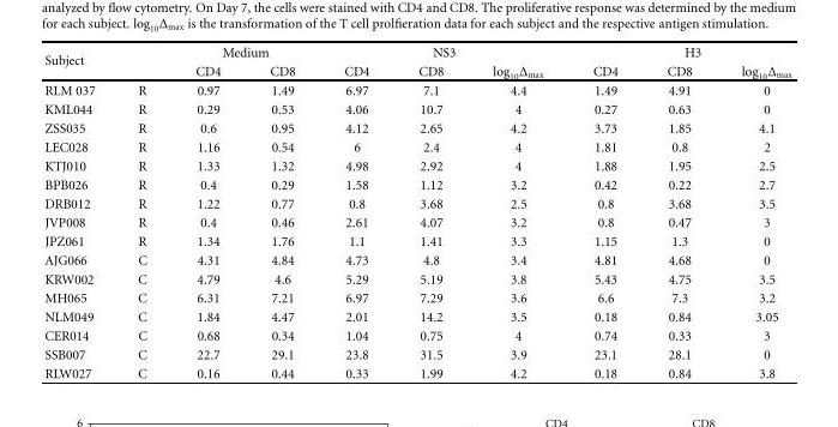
<table><thead><tr><td rowspan="2">Subject</td><td rowspan="2"></td><td colspan="2">Medium</td><td colspan="3">NS3</td><td colspan="3">H3</td></tr><tr><td>CD4</td><td>CD8</td><td>CD4</td><td>CD8</td><td>log<sub>10</sub>Δ<sub>max</sub></td><td>CD4</td><td>CD8</td><td>log<sub>10</sub>Δ<sub>max</sub></td></tr></thead><tbody><tr><td>RLM 037</td><td>R</td><td>0.97</td><td>1.49</td><td>6.97</td><td>7.1</td><td>4.4</td><td>1.49</td><td>4.91</td><td>0</td></tr><tr><td>KML044</td><td>R</td><td>0.29</td><td>0.53</td><td>4.06</td><td>10.7</td><td>4</td><td>0.27</td><td>0.63</td><td>0</td></tr><tr><td>ZSS035</td><td>R</td><td>0.6</td><td>0.95</td><td>4.12</td><td>2.65</td><td>4.2</td><td>3.73</td><td>1.85</td><td>4.1</td></tr><tr><td>LEC028</td><td>R</td><td>1.16</td><td>0.54</td><td>6</td><td>2.4</td><td>4</td><td>1.81</td><td>0.8</td><td>2</td></tr><tr><td>KTJ010</td><td>R</td><td>1.33</td><td>1.32</td><td>4.98</td><td>2.92</td><td>4</td><td>1.88</td><td>1.95</td><td>2.5</td></tr><tr><td>BPB026</td><td>R</td><td>0.4</td><td>0.29</td><td>1.58</td><td>1.12</td><td>3.2</td><td>0.42</td><td>0.22</td><td>2.7</td></tr><tr><td>DRB012</td><td>R</td><td>1.22</td><td>0.77</td><td>0.8</td><td>3.68</td><td>2.5</td><td>0.8</td><td>3.68</td><td>3.5</td></tr><tr><td>JVP008</td><td>R</td><td>0.4</td><td>0.46</td><td>2.61</td><td>4.07</td><td>3.2</td><td>0.8</td><td>0.47</td><td>3</td></tr><tr><td>JPZ061</td><td>R</td><td>1.34</td><td>1.76</td><td>1.1</td><td>1.41</td><td>3.3</td><td>1.15</td><td>1.3</td><td>0</td></tr><tr><td>AJG066</td><td>C</td><td>4.31</td><td>4.84</td><td>4.73</td><td>4.8</td><td>3.4</td><td>4.81</td><td>4.68</td><td>0</td></tr><tr><td>KRW002</td><td>C</td><td>4.79</td><td>4.6</td><td>5.29</td><td>5.19</td><td>3.8</td><td>5.43</td><td>4.75</td><td>3.5</td></tr><tr><td>MH065</td><td>C</td><td>6.31</td><td>7.21</td><td>6.97</td><td>7.29</td><td>3.6</td><td>6.6</td><td>7.3</td><td>3.2</td></tr><tr><td>NLM049</td><td>C</td><td>1.84</td><td>4.47</td><td>2.01</td><td>14.2</td><td>3.5</td><td>0.18</td><td>0.84</td><td>3.05</td></tr><tr><td>CER014</td><td>C</td><td>0.68</td><td>0.34</td><td>1.04</td><td>0.75</td><td>4</td><td>0.74</td><td>0.33</td><td>3</td></tr><tr><td>SSB007</td><td>C</td><td>22.7</td><td>29.1</td><td>23.8</td><td>31.5</td><td>3.9</td><td>23.1</td><td>28.1</td><td>0</td></tr><tr><td>RLW027</td><td>C</td><td>0.16</td><td>0.44</td><td>0.33</td><td>1.99</td><td>4.2</td><td>0.18</td><td>0.84</td><td>3.8</td></tr></tbody></table>